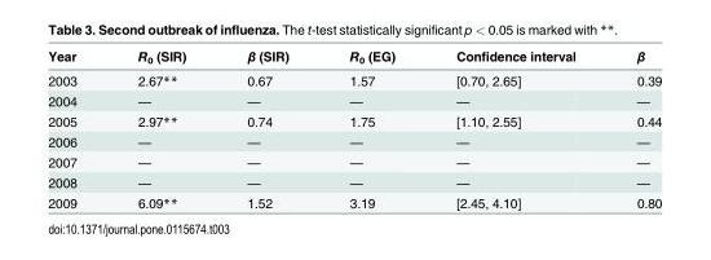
<table><thead><tr><td>Year</td><td>R<sub>0</sub> (SIR)</td><td>β (SIR)</td><td>R<sub>0</sub> (EG)</td><td>Confidence interval</td><td>β</td></tr></thead><tbody><tr><td>2003</td><td>2.67**</td><td>0.67</td><td>1.57</td><td>[0.70, 2.65]</td><td>0.39</td></tr><tr><td>2004</td><td>—</td><td>—</td><td>—</td><td>—</td><td>—</td></tr><tr><td>2005</td><td>2.97**</td><td>0.74</td><td>1.75</td><td>[1.10, 2.55]</td><td>0.44</td></tr><tr><td>2006</td><td>—</td><td>—</td><td>—</td><td>—</td><td>—</td></tr><tr><td>2007</td><td>—</td><td>—</td><td>—</td><td>—</td><td>—</td></tr><tr><td>2008</td><td>—</td><td>—</td><td>—</td><td>—</td><td>—</td></tr><tr><td>2009</td><td>6.09**</td><td>1.52</td><td>3.19</td><td>[2.45, 4.10]</td><td>0.80</td></tr></tbody></table>